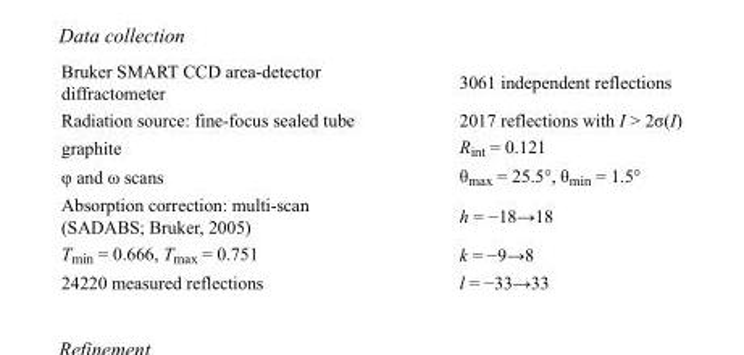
<table><tbody><tr><td>Bruker SMART CCD area-detector diffractometer</td><td>3061 independent reflections</td></tr><tr><td>Radiation source: fine-focus sealed tube</td><td>2017 reflections with I &gt; 2σ(I)</td></tr><tr><td>graphite</td><td>R<sub>int</sub> = 0.121</td></tr><tr><td>φ and ω scans</td><td>θ<sub>max</sub> = 25.5°, θ<sub>min</sub> = 1.5°</td></tr><tr><td>Absorption correction: multi-scan (SADABS; Bruker, 2005)</td><td>h = −18→18</td></tr><tr><td>T<sub>min</sub> = 0.666, T<sub>max</sub> = 0.751</td><td>k = −9→8</td></tr><tr><td>24220 measured reflections</td><td>l = −33→33</td></tr></tbody></table>